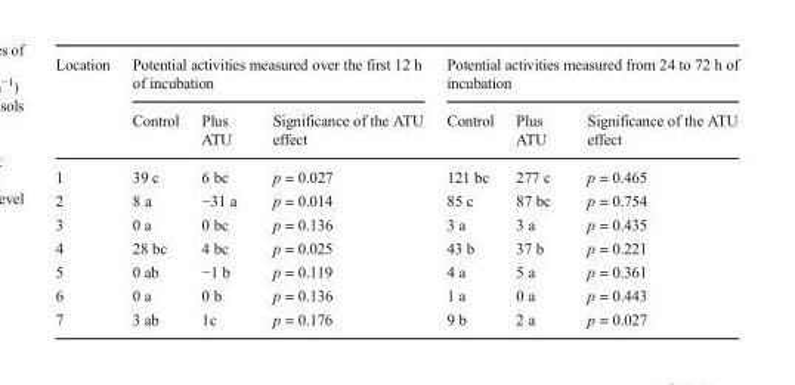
<table><thead><tr><td rowspan="2">Location</td><td colspan="3">Potential activities measured over the first 12 h of incubation</td><td colspan="3">Potential activities measured from 24 to 72 h of incubation</td></tr><tr><td>Control</td><td>Plus ATU</td><td>Significance of the ATU effect</td><td>Control</td><td>Plus ATU</td><td>Significance of the ATU effect</td></tr></thead><tbody><tr><td>1</td><td>39 c</td><td>6 bc</td><td>p = 0.027</td><td>121 bc</td><td>277 c</td><td>p = 0.465</td></tr><tr><td>2</td><td>8 a</td><td>−31 a</td><td>p = 0.014</td><td>85 c</td><td>87 bc</td><td>p = 0.754</td></tr><tr><td>3</td><td>0 a</td><td>0 bc</td><td>p = 0.136</td><td>3 a</td><td>3 a</td><td>p = 0.435</td></tr><tr><td>4</td><td>28 bc</td><td>4 bc</td><td>p = 0.025</td><td>43 b</td><td>37 b</td><td>p = 0.221</td></tr><tr><td>5</td><td>0 ab</td><td>−1 b</td><td>p = 0.119</td><td>4 a</td><td>5 a</td><td>p = 0.361</td></tr><tr><td>6</td><td>0 a</td><td>0 b</td><td>p = 0.136</td><td>1 a</td><td>0 a</td><td>p = 0.443</td></tr><tr><td>7</td><td>3 ab</td><td>1c</td><td>p = 0.176</td><td>9 b</td><td>2 a</td><td>p = 0.027</td></tr></tbody></table>